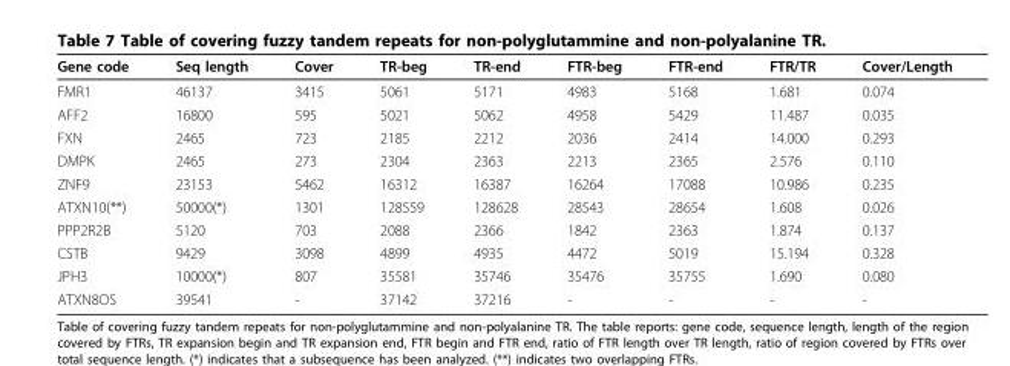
<table><thead><tr><td>Gene code</td><td>Seq length</td><td>Cover</td><td>TR-beg</td><td>TR-end</td><td>FTR-beg</td><td>FTR-end</td><td>FTR/TR</td><td>Cover/Length</td></tr></thead><tbody><tr><td>FMR1</td><td>46137</td><td>3415</td><td>5061</td><td>5171</td><td>4983</td><td>5168</td><td>1.681</td><td>0.074</td></tr><tr><td>AFF2</td><td>16800</td><td>595</td><td>5021</td><td>5062</td><td>4958</td><td>5429</td><td>11.487</td><td>0.035</td></tr><tr><td>FXN</td><td>2465</td><td>723</td><td>2185</td><td>2212</td><td>2036</td><td>2414</td><td>14.000</td><td>0.293</td></tr><tr><td>DMPK</td><td>2465</td><td>273</td><td>2304</td><td>2363</td><td>2213</td><td>2365</td><td>2.576</td><td>0.110</td></tr><tr><td>ZNF9</td><td>23153</td><td>5462</td><td>16312</td><td>16387</td><td>16264</td><td>17088</td><td>10.986</td><td>0.235</td></tr><tr><td>ATXN10(**)</td><td>50000(*)</td><td>1301</td><td>128559</td><td>128628</td><td>28543</td><td>28654</td><td>1.608</td><td>0.026</td></tr><tr><td>PPP2R2B</td><td>5120</td><td>703</td><td>2088</td><td>2366</td><td>1842</td><td>2363</td><td>1.874</td><td>0.137</td></tr><tr><td>CSTB</td><td>9429</td><td>3098</td><td>4899</td><td>4935</td><td>4472</td><td>5019</td><td>15.194</td><td>0.328</td></tr><tr><td>JPH3</td><td>10000(*)</td><td>807</td><td>35581</td><td>35746</td><td>35476</td><td>35755</td><td>1.690</td><td>0.080</td></tr><tr><td>ATXN8OS</td><td>39541</td><td>-</td><td>37142</td><td>37216</td><td>-</td><td>-</td><td>-</td><td>-</td></tr></tbody></table>